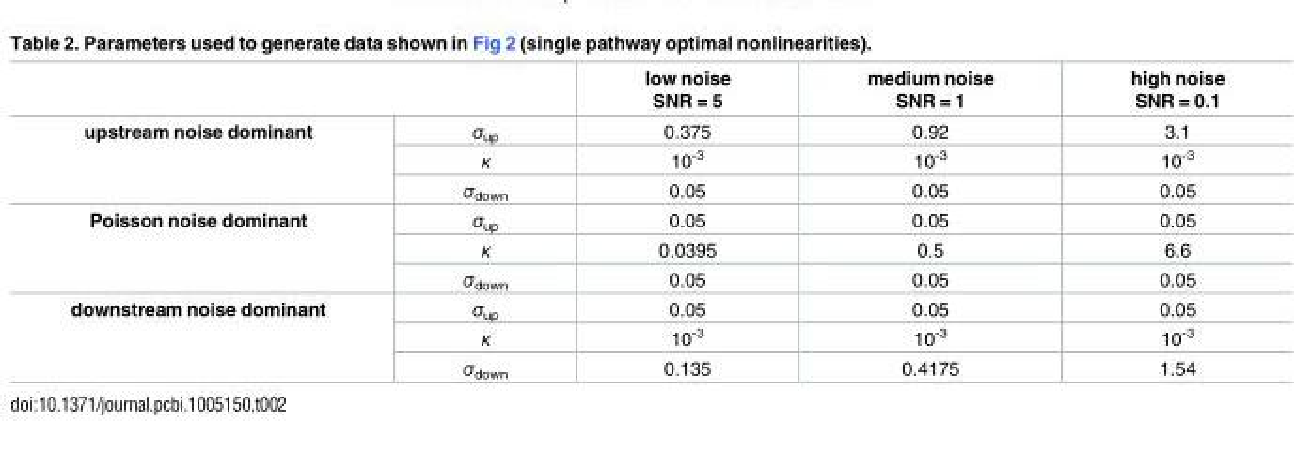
<table><thead><tr><td></td><td></td><td>low noise SNR = 5</td><td>medium noise SNR = 1</td><td>high noise SNR = 0.1</td></tr></thead><tbody><tr><td rowspan="3">upstream noise dominant</td><td>σ<sub>up</sub></td><td>0.375</td><td>0.92</td><td>3.1</td></tr><tr><td>κ</td><td>10<sup>-3</sup></td><td>10<sup>-3</sup></td><td>10<sup>-3</sup></td></tr><tr><td>σ<sub>down</sub></td><td>0.05</td><td>0.05</td><td>0.05</td></tr><tr><td rowspan="3">Poisson noise dominant</td><td>σ<sub>up</sub></td><td>0.05</td><td>0.05</td><td>0.05</td></tr><tr><td>κ</td><td>0.0395</td><td>0.5</td><td>6.6</td></tr><tr><td>σ<sub>down</sub></td><td>0.05</td><td>0.05</td><td>0.05</td></tr><tr><td rowspan="3">downstream noise dominant</td><td>σ<sub>up</sub></td><td>0.05</td><td>0.05</td><td>0.05</td></tr><tr><td>κ</td><td>10<sup>-3</sup></td><td>10<sup>-3</sup></td><td>10<sup>-3</sup></td></tr><tr><td>σ<sub>down</sub></td><td>0.135</td><td>0.4175</td><td>1.54</td></tr></tbody></table>